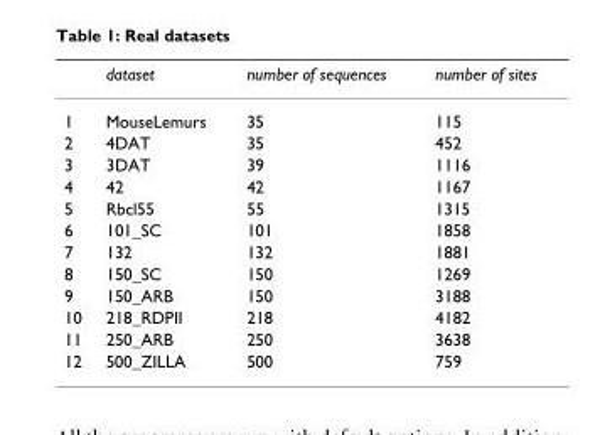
<table><thead><tr><td></td><td>dataset</td><td>number of sequences</td><td>number of sites</td></tr></thead><tbody><tr><td>1</td><td>MouseLemurs</td><td>35</td><td>115</td></tr><tr><td>2</td><td>4DAT</td><td>35</td><td>452</td></tr><tr><td>3</td><td>3DAT</td><td>39</td><td>1116</td></tr><tr><td>4</td><td>42</td><td>42</td><td>1167</td></tr><tr><td>5</td><td>Rbcl55</td><td>55</td><td>1315</td></tr><tr><td>6</td><td>101_SC</td><td>101</td><td>1858</td></tr><tr><td>7</td><td>132</td><td>132</td><td>1881</td></tr><tr><td>8</td><td>150_SC</td><td>150</td><td>1269</td></tr><tr><td>9</td><td>150_ARB</td><td>150</td><td>3188</td></tr><tr><td>10</td><td>218_RDPII</td><td>218</td><td>4182</td></tr><tr><td>11</td><td>250_ARB</td><td>250</td><td>3638</td></tr><tr><td>12</td><td>500_ZILLA</td><td>500</td><td>759</td></tr></tbody></table>